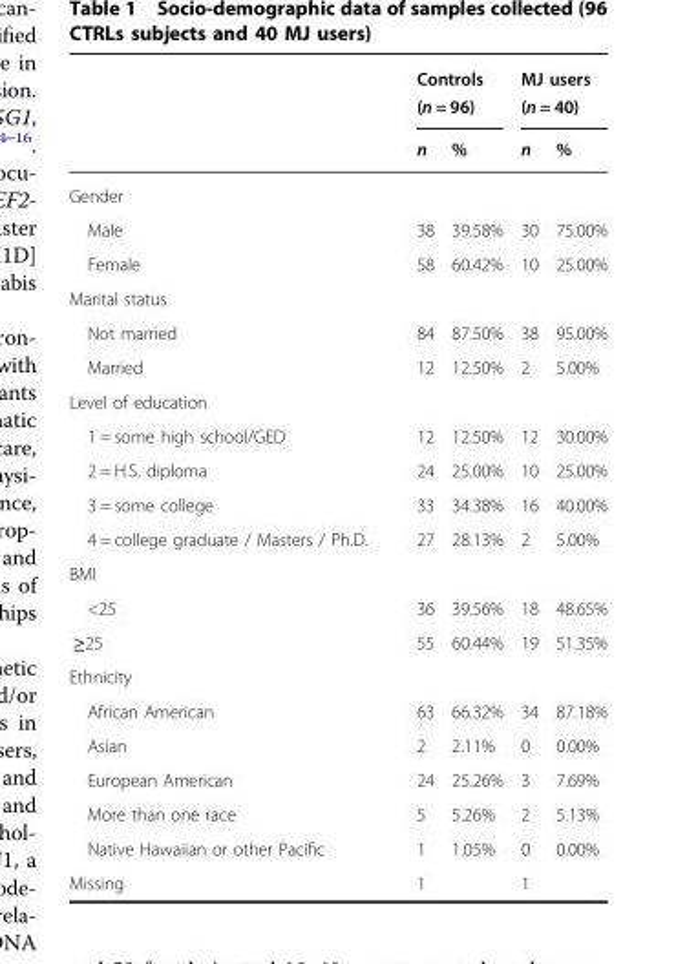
<table><thead><tr><td rowspan="2"></td><td colspan="2">Controls (n = 96)</td><td colspan="2">MJ users (n = 40)</td></tr><tr><td>n</td><td>%</td><td>n</td><td>%</td></tr></thead><tbody><tr><td colspan="5">Gender</td></tr><tr><td>Male</td><td>38</td><td>39.58%</td><td>30</td><td>75.00%</td></tr><tr><td>Female</td><td>58</td><td>60.42%</td><td>10</td><td>25.00%</td></tr><tr><td colspan="5">Marital status</td></tr><tr><td>Not married</td><td>84</td><td>87.50%</td><td>38</td><td>95.00%</td></tr><tr><td>Married</td><td>12</td><td>12.50%</td><td>2</td><td>5.00%</td></tr><tr><td colspan="5">Level of education</td></tr><tr><td>1 = some high school/GED</td><td>12</td><td>12.50%</td><td>12</td><td>30.00%</td></tr><tr><td>2 = H.S. diploma</td><td>24</td><td>25.00%</td><td>10</td><td>25.00%</td></tr><tr><td>3 = some college</td><td>33</td><td>34.38%</td><td>16</td><td>40.00%</td></tr><tr><td>4 = college graduate / Masters / Ph.D.</td><td>27</td><td>28.13%</td><td>2</td><td>5.00%</td></tr><tr><td colspan="5">BMI</td></tr><tr><td>&lt;25</td><td>36</td><td>39.56%</td><td>18</td><td>48.65%</td></tr><tr><td>≥25</td><td>55</td><td>60.44%</td><td>19</td><td>51.35%</td></tr><tr><td colspan="5">Ethnicity</td></tr><tr><td>African American</td><td>63</td><td>66.32%</td><td>34</td><td>87.18%</td></tr><tr><td>Asian</td><td>2</td><td>2.11%</td><td>0</td><td>0.00%</td></tr><tr><td>European American</td><td>24</td><td>25.26%</td><td>3</td><td>7.69%</td></tr><tr><td>More than one race</td><td>5</td><td>5.26%</td><td>2</td><td>5.13%</td></tr><tr><td>Native Hawaiian or other Pacific</td><td>1</td><td>1.05%</td><td>0</td><td>0.00%</td></tr><tr><td>Missing</td><td>1</td><td></td><td>1</td><td></td></tr></tbody></table>